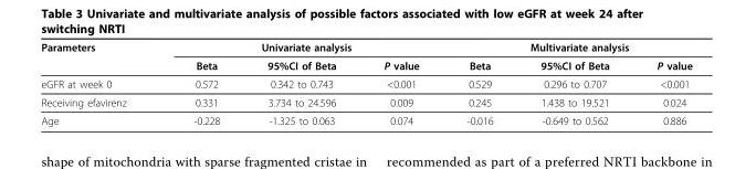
<table><thead><tr><td rowspan="2">Parameters</td><td colspan="3">Univariate analysis</td><td colspan="3">Multivariate analysis</td></tr><tr><td>Beta</td><td>95%CI of Beta</td><td>P value</td><td>Beta</td><td>95%CI of Beta</td><td>P value</td></tr></thead><tbody><tr><td>eGFR at week 0</td><td>0.572</td><td>0.342 to 0.743</td><td>&lt;0.001</td><td>0.529</td><td>0.296 to 0.707</td><td>&lt;0.001</td></tr><tr><td>Receiving efavirenz</td><td>0.331</td><td>3.734 to 24.596</td><td>0.009</td><td>0.245</td><td>1.438 to 19.521</td><td>0.024</td></tr><tr><td>Age</td><td>-0.228</td><td>-1.325 to 0.063</td><td>0.074</td><td>-0.016</td><td>-0.649 to 0.562</td><td>0.886</td></tr></tbody></table>